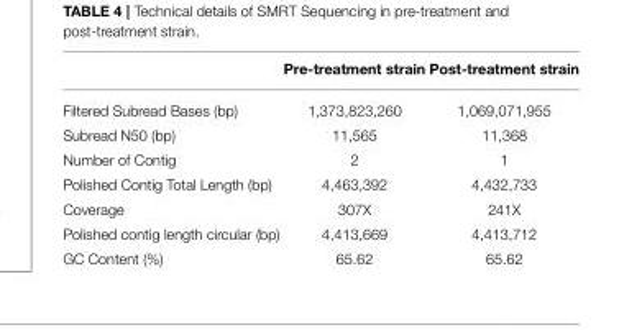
<table><thead><tr><td></td><td>Pre-treatment strain</td><td>Post-treatment strain</td></tr></thead><tbody><tr><td>Filtered Subread Bases (bp)</td><td>1,373,823,260</td><td>1,069,071,955</td></tr><tr><td>Subread N50 (bp)</td><td>11,565</td><td>11,368</td></tr><tr><td>Number of Contig</td><td>2</td><td>1</td></tr><tr><td>Polished Contig Total Length (bp)</td><td>4,463,392</td><td>4,432,733</td></tr><tr><td>Coverage</td><td>307X</td><td>241X</td></tr><tr><td>Polished contig length circular (bp)</td><td>4,413,669</td><td>4,413,712</td></tr><tr><td>GC Content (%)</td><td>65.62</td><td>65.62</td></tr></tbody></table>